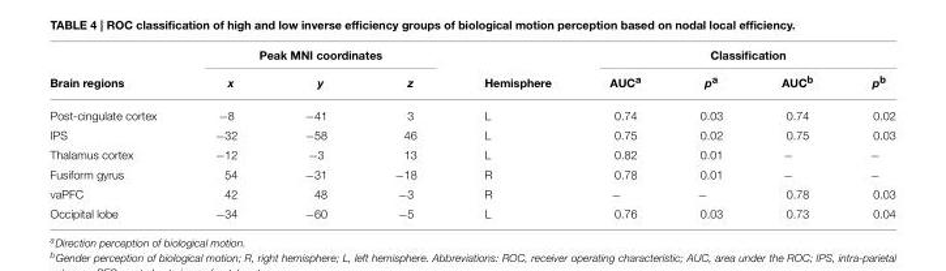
<table><thead><tr><td rowspan="2">Brain regions</td><td colspan="3">Peak MNI coordinates</td><td rowspan="2">Hemisphere</td><td colspan="4">Classification</td></tr><tr><td>x</td><td>y</td><td>z</td><td>AUC<sup>a</sup></td><td>p<sup>a</sup></td><td>AUC<sup>b</sup></td><td>p<sup>b</sup></td></tr></thead><tbody><tr><td>Post-cingulate cortex</td><td>−8</td><td>−41</td><td>3</td><td>L</td><td>0.74</td><td>0.03</td><td>0.74</td><td>0.02</td></tr><tr><td>IPS</td><td>−32</td><td>−58</td><td>46</td><td>L</td><td>0.75</td><td>0.02</td><td>0.75</td><td>0.03</td></tr><tr><td>Thalamus cortex</td><td>−12</td><td>−3</td><td>13</td><td>L</td><td>0.82</td><td>0.01</td><td>−</td><td>−</td></tr><tr><td>Fusiform gyrus</td><td>54</td><td>−31</td><td>−18</td><td>R</td><td>0.78</td><td>0.01</td><td>−</td><td>−</td></tr><tr><td>vaPFC</td><td>42</td><td>48</td><td>−3</td><td>R</td><td>−</td><td>−</td><td>0.78</td><td>0.03</td></tr><tr><td>Occipital lobe</td><td>−34</td><td>−60</td><td>−5</td><td>L</td><td>0.76</td><td>0.03</td><td>0.73</td><td>0.04</td></tr></tbody></table>